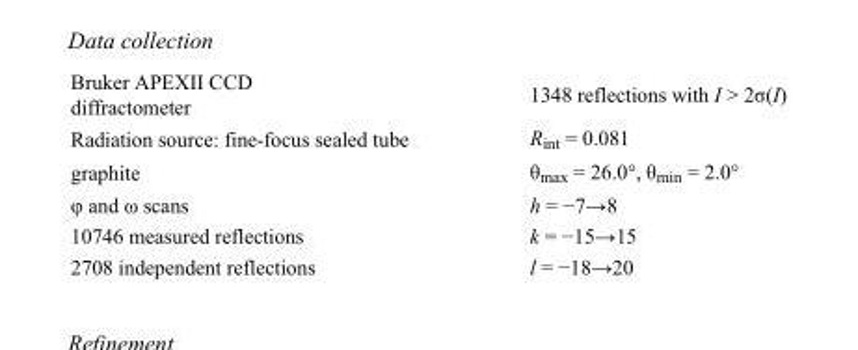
<table><tbody><tr><td>Bruker APEXII CCD diffractometer</td><td>1348 reflections with I &gt; 2σ(I)</td></tr><tr><td>Radiation source: fine-focus sealed tube</td><td>R<sub>int</sub> = 0.081</td></tr><tr><td>graphite</td><td>θ<sub>max</sub> = 26.0°, θ<sub>min</sub> = 2.0°</td></tr><tr><td>φ and ω scans</td><td>h = −7→8</td></tr><tr><td>10746 measured reflections</td><td>k = −15→15</td></tr><tr><td>2708 independent reflections</td><td>l = −18→20</td></tr></tbody></table>